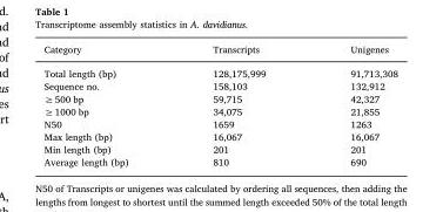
<table><thead><tr><td>Category</td><td>Transcripts</td><td>Unigenes</td></tr></thead><tbody><tr><td>Total length (bp)</td><td>128,175,999</td><td>91,713,308</td></tr><tr><td>Sequence no.</td><td>158,103</td><td>132,912</td></tr><tr><td>≥500 bp</td><td>59,715</td><td>42,327</td></tr><tr><td>≥1000 bp</td><td>34,075</td><td>21,855</td></tr><tr><td>N50</td><td>1659</td><td>1263</td></tr><tr><td>Max length (bp)</td><td>16,067</td><td>16,067</td></tr><tr><td>Min length (bp)</td><td>201</td><td>201</td></tr><tr><td>Average length (bp)</td><td>810</td><td>690</td></tr></tbody></table>